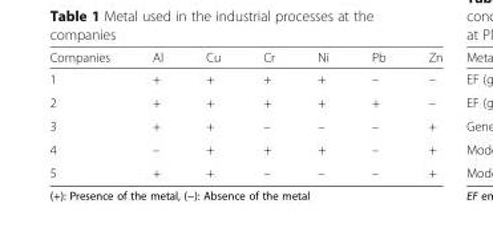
<table><thead><tr><td>Companies</td><td>Al</td><td>Cu</td><td>Cr</td><td>Ni</td><td>Pb</td><td>Zn</td></tr></thead><tbody><tr><td>1</td><td>+</td><td>+</td><td>+</td><td>+</td><td>–</td><td>–</td></tr><tr><td>2</td><td>+</td><td>+</td><td>+</td><td>+</td><td>+</td><td>–</td></tr><tr><td>3</td><td>+</td><td>+</td><td>–</td><td>–</td><td>–</td><td>+</td></tr><tr><td>4</td><td>–</td><td>+</td><td>+</td><td>+</td><td>–</td><td>+</td></tr><tr><td>5</td><td>+</td><td>+</td><td>–</td><td>–</td><td>–</td><td>+</td></tr></tbody></table>